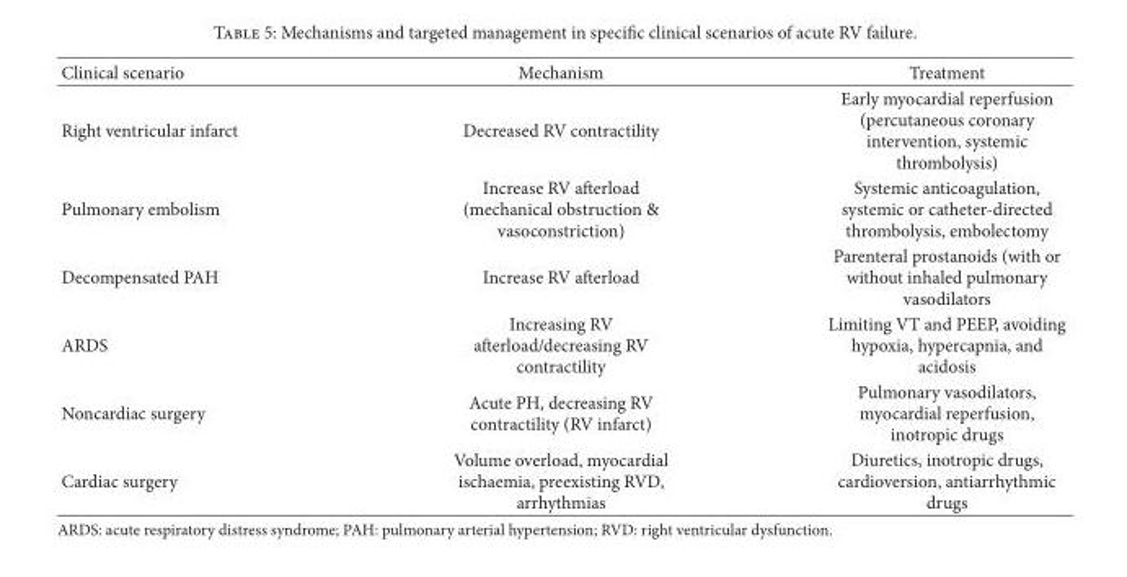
<table><thead><tr><td>Clinical scenario</td><td>Mechanism</td><td>Treatment</td></tr></thead><tbody><tr><td>Right ventricular infarct</td><td>Decreased RV contractility</td><td>Early myocardial reperfusion (percutaneous coronary intervention, systemic thrombolysis)</td></tr><tr><td>Pulmonary embolism</td><td>Increase RV afterload (mechanical obstruction &amp; vasoconstriction)</td><td>Systemic anticoagulation, systemic or catheter-directed thrombolysis, embolectomy</td></tr><tr><td>Decompensated PAH</td><td>Increase RV afterload</td><td>Parenteral prostanoids (with or without inhaled pulmonary vasodilators</td></tr><tr><td>ARDS</td><td>Increasing RV afterload/decreasing RV contractility</td><td>Limiting VT and PEEP, avoiding hypoxia, hypercapnia, and acidosis</td></tr><tr><td>Noncardiac surgery</td><td>Acute PH, decreasing RV contractility (RV infarct)</td><td>Pulmonary vasodilators, myocardial reperfusion, inotropic drugs</td></tr><tr><td>Cardiac surgery</td><td>Volume overload, myocardial ischaemia, preexisting RVD, arrhythmias</td><td>Diuretics, inotropic drugs, cardioversion, antiarrhythmic drugs</td></tr></tbody></table>